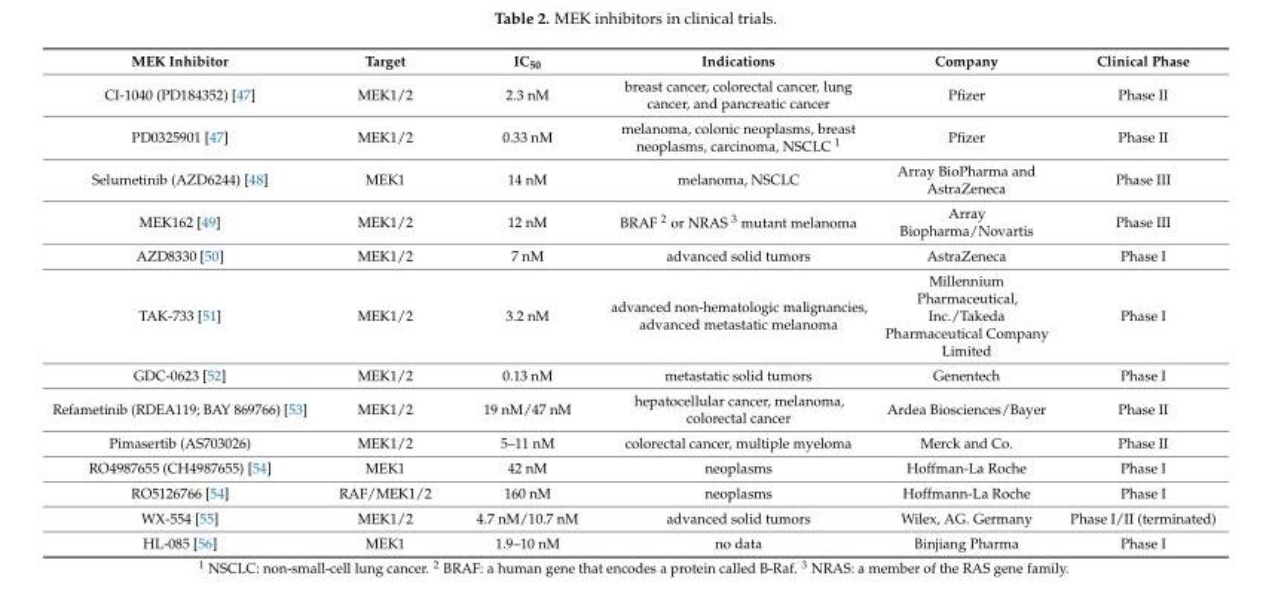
<table><thead><tr><td>MEK Inhibitor</td><td>Target</td><td>IC<sub>50</sub></td><td>Indications</td><td>Company</td><td>Clinical Phase</td></tr></thead><tbody><tr><td>CI-1040 (PD184352) [47]</td><td>MEK1/2</td><td>2.3 nM</td><td>breast cancer, colorectal cancer, lung cancer, and pancreatic cancer</td><td>Pfizer</td><td>Phase II</td></tr><tr><td>PD0325901 [47]</td><td>MEK1/2</td><td>0.33 nM</td><td>melanoma, colonic neoplasms, breast neoplasms, carcinoma, NSCLC <sup>1</sup></td><td>Pfizer</td><td>Phase II</td></tr><tr><td>Selumetinib (AZD6244) [48]</td><td>MEK1</td><td>14 nM</td><td>melanoma, NSCLC</td><td>Array BioPharma and AstraZeneca</td><td>Phase III</td></tr><tr><td>MEK162 [49]</td><td>MEK1/2</td><td>12 nM</td><td>BRAF <sup>2</sup> or NRAS <sup>3</sup> mutant melanoma</td><td>Array Biopharma/Novartis</td><td>Phase III</td></tr><tr><td>AZD8330 [50]</td><td>MEK1/2</td><td>7 nM</td><td>advanced solid tumors</td><td>AstraZeneca</td><td>Phase I</td></tr><tr><td>TAK-733 [51]</td><td>MEK1/2</td><td>3.2 nM</td><td>advanced non-hematologic malignancies, advanced metastatic melanoma</td><td>Millennium Pharmaceutical, Inc./Takeda Pharmaceutical Company Limited</td><td>Phase I</td></tr><tr><td>GDC-0623 [52]</td><td>MEK1/2</td><td>0.13 nM</td><td>metastatic solid tumors</td><td>Genentech</td><td>Phase I</td></tr><tr><td>Refametinib (RDEA119; BAY 869766) [53]</td><td>MEK1/2</td><td>19 nM/47 nM</td><td>hepatocellular cancer, melanoma, colorectal cancer</td><td>Ardea Biosciences/Bayer</td><td>Phase II</td></tr><tr><td>Pimasertib (AS703026)</td><td>MEK1/2</td><td>5–11 nM</td><td>colorectal cancer, multiple myeloma</td><td>Merck and Co.</td><td>Phase II</td></tr><tr><td>RO4987655 (CH4987655) [54]</td><td>MEK1</td><td>42 nM</td><td>neoplasms</td><td>Hoffman-La Roche</td><td>Phase I</td></tr><tr><td>RO5126766 [54]</td><td>RAF/MEK1/2</td><td>160 nM</td><td>neoplasms</td><td>Hoffmann-La Roche</td><td>Phase I</td></tr><tr><td>WX-554 [55]</td><td>MEK1/2</td><td>4.7 nM/10.7 nM</td><td>advanced solid tumors</td><td>Wilex, AG. Germany</td><td>Phase I/II (terminated)</td></tr><tr><td>HL-085 [56]</td><td>MEK1</td><td>1.9–10 nM</td><td>no data</td><td>Binjiang Pharma</td><td>Phase I</td></tr></tbody></table>